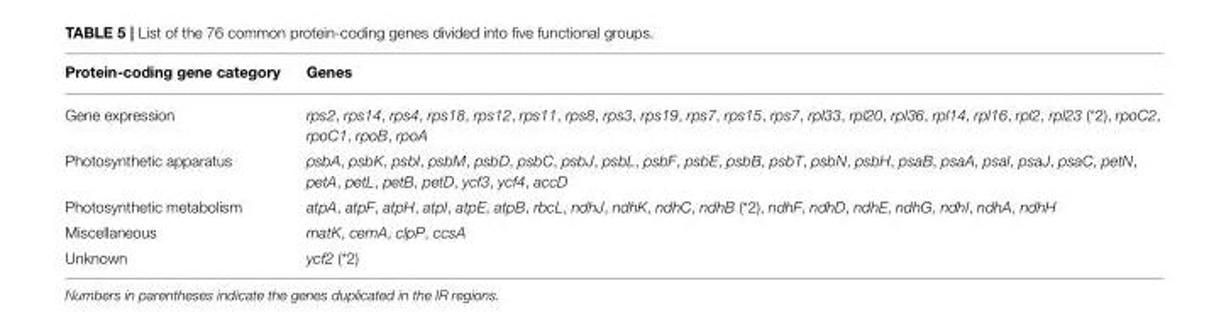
<table><thead><tr><td>Protein-coding gene category</td><td>Genes</td></tr></thead><tbody><tr><td>Gene expression</td><td>rps2, rps14, rps4, rps18, rps12, rps11, rps8, rps3, rps19, rps7, rps15, rps7, rpl33, rpl20, rpl36, rpl14, rpl16, rpl2, rpl23 (*2), rpoC2, rpoC1, rpoB, rpoA</td></tr><tr><td>Photosynthetic apparatus</td><td>psbA, psbK, psbI, psbM, psbD, psbC, psbJ, psbL, psbF, psbE, psbB, psbT, psbN, psbH, psaB, psaA, psaI, psaJ, psaC, petN, petA, petL, petB, petD, ycf3, ycf4, accD</td></tr><tr><td>Photosynthetic metabolism</td><td>atpA, atpF, atpH, atpI, atpE, atpB, rbcL, ndhJ, ndhK, ndhC, ndhB (*2), ndhF, ndhD, ndhE, ndhG, ndhI, ndhA, ndhH</td></tr><tr><td>Miscellaneous</td><td>matK, cemA, clpP, ccsA</td></tr><tr><td>Unknown</td><td>ycf2 (*2)</td></tr></tbody></table>